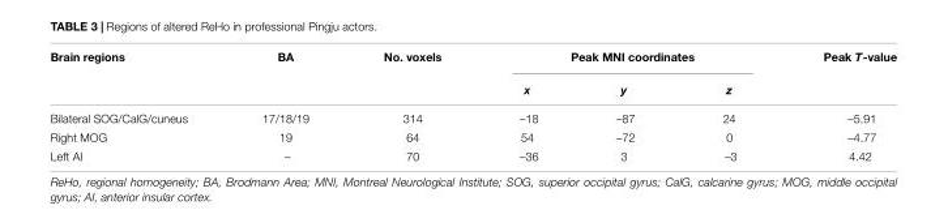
<table><thead><tr><td rowspan="2">Brain regions</td><td rowspan="2">BA</td><td rowspan="2">No. voxels</td><td colspan="3">Peak MNI coordinates</td><td rowspan="2">Peak T-value</td></tr><tr><td>x</td><td>y</td><td>z</td></tr></thead><tbody><tr><td>Bilateral SOG/CalG/cuneus</td><td>17/18/19</td><td>314</td><td>–18</td><td>–87</td><td>24</td><td>–5.91</td></tr><tr><td>Right MOG</td><td>19</td><td>64</td><td>54</td><td>–72</td><td>0</td><td>–4.77</td></tr><tr><td>Left AI</td><td>–</td><td>70</td><td>–36</td><td>3</td><td>–3</td><td>4.42</td></tr></tbody></table>